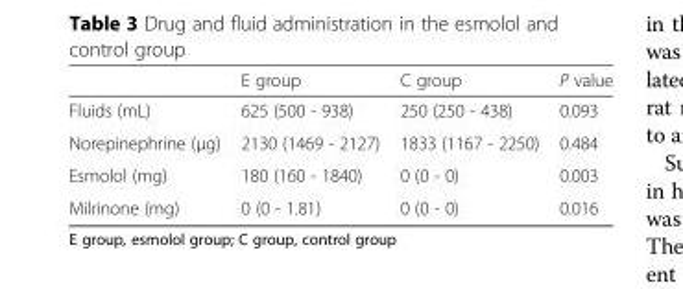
<table><thead><tr><td></td><td>E group</td><td>C group</td><td>P value</td></tr></thead><tbody><tr><td>Fluids (mL)</td><td>625 (500 - 938)</td><td>250 (250 - 438)</td><td>0.093</td></tr><tr><td>Norepinephrine (μg)</td><td>2130 (1469 - 2127)</td><td>1833 (1167 - 2250)</td><td>0.484</td></tr><tr><td>Esmolol (mg)</td><td>180 (160 - 1840)</td><td>0 (0 - 0)</td><td>0.003</td></tr><tr><td>Milrinone (mg)</td><td>0 (0 - 1.81)</td><td>0 (0 - 0)</td><td>0.016</td></tr></tbody></table>